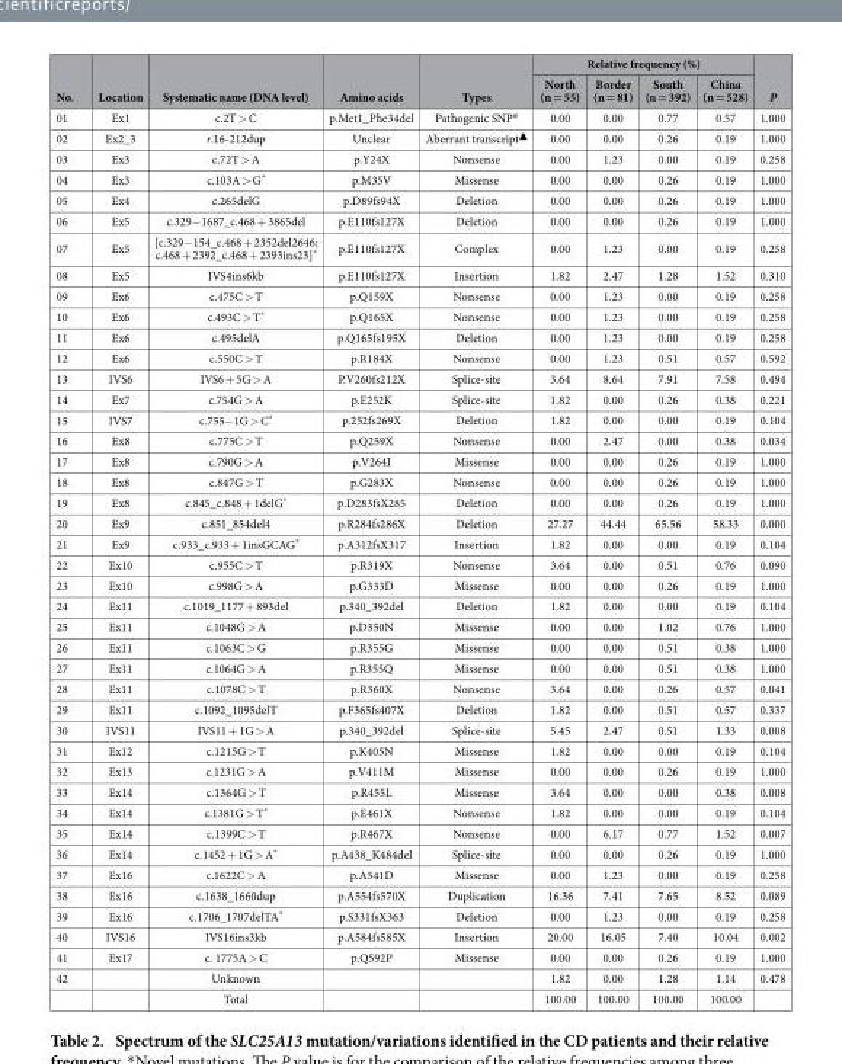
<table><thead><tr><td rowspan="2">No.</td><td rowspan="2">Location</td><td rowspan="2">Systematic name (DNA level)</td><td rowspan="2">Amino acids</td><td rowspan="2">Types</td><td colspan="4">Relative frequency (%)</td><td rowspan="2">P</td></tr><tr><td>North (n = 55)</td><td>Border (n = 81)</td><td>South (n = 392)</td><td>China (n = 528)</td></tr></thead><tbody><tr><td>01</td><td>Ex1</td><td>c.2T &gt; C</td><td>p.Met1_Phe34del</td><td>Pathogenic SNP※</td><td>0.00</td><td>0.00</td><td>0.77</td><td>0.57</td><td>1.000</td></tr><tr><td>02</td><td>Ex2_3</td><td>r.16-212dup</td><td>Unclear</td><td>Aberrant transcript▲</td><td>0.00</td><td>0.00</td><td>0.26</td><td>0.19</td><td>1.000</td></tr><tr><td>03</td><td>Ex3</td><td>c.72T &gt; A</td><td>p.Y24X</td><td>Nonsense</td><td>0.00</td><td>1.23</td><td>0.00</td><td>0.19</td><td>0.258</td></tr><tr><td>04</td><td>Ex3</td><td>c.103A &gt; G*</td><td>p.M35V</td><td>Missense</td><td>0.00</td><td>0.00</td><td>0.26</td><td>0.19</td><td>1.000</td></tr><tr><td>05</td><td>Ex4</td><td>c.265delG</td><td>p.D89fs94X</td><td>Deletion</td><td>0.00</td><td>0.00</td><td>0.26</td><td>0.19</td><td>1.000</td></tr><tr><td>06</td><td>Ex5</td><td>c.329− 1687_c.468 + 3865del</td><td>p.E110fs127X</td><td>Deletion</td><td>0.00</td><td>0.00</td><td>0.26</td><td>0.19</td><td>1.000</td></tr><tr><td>07</td><td>Ex5</td><td>[c.329− 154_c.468 + 2352del2646; c.468 + 2392_c.468 + 2393ins23]*</td><td>p.E110fs127X</td><td>Complex</td><td>0.00</td><td>1.23</td><td>0.00</td><td>0.19</td><td>0.258</td></tr><tr><td>08</td><td>Ex5</td><td>IVS4ins6kb</td><td>p.E110fs127X</td><td>Insertion</td><td>1.82</td><td>2.47</td><td>1.28</td><td>1.52</td><td>0.310</td></tr><tr><td>09</td><td>Ex6</td><td>c.475C &gt; T</td><td>p.Q159X</td><td>Nonsense</td><td>0.00</td><td>1.23</td><td>0.00</td><td>0.19</td><td>0.258</td></tr><tr><td>10</td><td>Ex6</td><td>c.493C &gt; T*</td><td>p.Q165X</td><td>Nonsense</td><td>0.00</td><td>1.23</td><td>0.00</td><td>0.19</td><td>0.258</td></tr><tr><td>11</td><td>Ex6</td><td>c.495delA</td><td>p.Q165fs195X</td><td>Deletion</td><td>0.00</td><td>1.23</td><td>0.00</td><td>0.19</td><td>0.258</td></tr><tr><td>12</td><td>Ex6</td><td>c.550C &gt; T</td><td>p.R184X</td><td>Nonsense</td><td>0.00</td><td>1.23</td><td>0.51</td><td>0.57</td><td>0.592</td></tr><tr><td>13</td><td>IVS6</td><td>IVS6 + 5G &gt; A</td><td>P.V260fs212X</td><td>Splice-site</td><td>3.64</td><td>8.64</td><td>7.91</td><td>7.58</td><td>0.494</td></tr><tr><td>14</td><td>Ex7</td><td>c.754G &gt; A</td><td>p.E252K</td><td>Splice-site</td><td>1.82</td><td>0.00</td><td>0.26</td><td>0.38</td><td>0.221</td></tr><tr><td>15</td><td>IVS7</td><td>c.755− 1G &gt; C*</td><td>p.252fs269X</td><td>Deletion</td><td>1.82</td><td>0.00</td><td>0.00</td><td>0.19</td><td>0.104</td></tr><tr><td>16</td><td>Ex8</td><td>c.775C &gt; T</td><td>p.Q259X</td><td>Nonsense</td><td>0.00</td><td>2.47</td><td>0.00</td><td>0.38</td><td>0.034</td></tr><tr><td>17</td><td>Ex8</td><td>c.790G &gt; A</td><td>p.V264I</td><td>Missense</td><td>0.00</td><td>0.00</td><td>0.26</td><td>0.19</td><td>1.000</td></tr><tr><td>18</td><td>Ex8</td><td>c.847G &gt; T</td><td>p.G283X</td><td>Nonsense</td><td>0.00</td><td>0.00</td><td>0.26</td><td>0.19</td><td>1.000</td></tr><tr><td>19</td><td>Ex8</td><td>c.845_c.848 + 1delG*</td><td>p.D283fsX285</td><td>Deletion</td><td>0.00</td><td>0.00</td><td>0.26</td><td>0.19</td><td>1.000</td></tr><tr><td>20</td><td>Ex9</td><td>c.851_854del4</td><td>p.R284fs286X</td><td>Deletion</td><td>27.27</td><td>44.44</td><td>65.56</td><td>58.33</td><td>0.000</td></tr><tr><td>21</td><td>Ex9</td><td>c.933_c.933 + 1insGCAG*</td><td>p.A312fsX317</td><td>Insertion</td><td>1.82</td><td>0.00</td><td>0.00</td><td>0.19</td><td>0.104</td></tr><tr><td>22</td><td>Ex10</td><td>c.955C &gt; T</td><td>p.R319X</td><td>Nonsense</td><td>3.64</td><td>0.00</td><td>0.51</td><td>0.76</td><td>0.090</td></tr><tr><td>23</td><td>Ex10</td><td>c.998G &gt; A</td><td>p.G333D</td><td>Missense</td><td>0.00</td><td>0.00</td><td>0.26</td><td>0.19</td><td>1.000</td></tr><tr><td>24</td><td>Ex11</td><td>c.1019_1177 + 893del</td><td>p.340_392del</td><td>Deletion</td><td>1.82</td><td>0.00</td><td>0.00</td><td>0.19</td><td>0.104</td></tr><tr><td>25</td><td>Ex11</td><td>c.1048G &gt; A</td><td>p.D350N</td><td>Missense</td><td>0.00</td><td>0.00</td><td>1.02</td><td>0.76</td><td>1.000</td></tr><tr><td>26</td><td>Ex11</td><td>c.1063C &gt; G</td><td>p.R355G</td><td>Missense</td><td>0.00</td><td>0.00</td><td>0.51</td><td>0.38</td><td>1.000</td></tr><tr><td>27</td><td>Ex11</td><td>c.1064G &gt; A</td><td>p.R355Q</td><td>Missense</td><td>0.00</td><td>0.00</td><td>0.51</td><td>0.38</td><td>1.000</td></tr><tr><td>28</td><td>Ex11</td><td>c.1078C &gt; T</td><td>p.R360X</td><td>Nonsense</td><td>3.64</td><td>0.00</td><td>0.26</td><td>0.57</td><td>0.041</td></tr><tr><td>29</td><td>Ex11</td><td>c.1092_1095delT</td><td>p.F365fs407X</td><td>Deletion</td><td>1.82</td><td>0.00</td><td>0.51</td><td>0.57</td><td>0.337</td></tr><tr><td>30</td><td>IVS11</td><td>IVS11 + 1G &gt; A</td><td>p.340_392del</td><td>Splice-site</td><td>5.45</td><td>2.47</td><td>0.51</td><td>1.33</td><td>0.008</td></tr><tr><td>31</td><td>Ex12</td><td>c.1215G &gt; T</td><td>p.K405N</td><td>Missense</td><td>1.82</td><td>0.00</td><td>0.00</td><td>0.19</td><td>0.104</td></tr><tr><td>32</td><td>Ex13</td><td>c.1231G &gt; A</td><td>p.V411M</td><td>Missense</td><td>0.00</td><td>0.00</td><td>0.26</td><td>0.19</td><td>1.000</td></tr><tr><td>33</td><td>Ex14</td><td>c.1364G &gt; T</td><td>p.R455L</td><td>Missense</td><td>3.64</td><td>0.00</td><td>0.00</td><td>0.38</td><td>0.008</td></tr><tr><td>34</td><td>Ex14</td><td>c.1381G &gt; T*</td><td>p.E461X</td><td>Nonsense</td><td>1.82</td><td>0.00</td><td>0.00</td><td>0.19</td><td>0.104</td></tr><tr><td>35</td><td>Ex14</td><td>c.1399C &gt; T</td><td>p.R467X</td><td>Nonsense</td><td>0.00</td><td>6.17</td><td>0.77</td><td>1.52</td><td>0.007</td></tr><tr><td>36</td><td>Ex14</td><td>c.1452 + 1G &gt; A*</td><td>p.A438_K484del</td><td>Splice-site</td><td>0.00</td><td>0.00</td><td>0.26</td><td>0.19</td><td>1.000</td></tr><tr><td>37</td><td>Ex16</td><td>c.1622C &gt; A</td><td>p.A541D</td><td>Missense</td><td>0.00</td><td>1.23</td><td>0.00</td><td>0.19</td><td>0.258</td></tr><tr><td>38</td><td>Ex16</td><td>c.1638_1660dup</td><td>p.A554fs570X</td><td>Duplication</td><td>16.36</td><td>7.41</td><td>7.65</td><td>8.52</td><td>0.089</td></tr><tr><td>39</td><td>Ex16</td><td>c.1706_1707delTA*</td><td>p.S331fsX363</td><td>Deletion</td><td>0.00</td><td>1.23</td><td>0.00</td><td>0.19</td><td>0.258</td></tr><tr><td>40</td><td>IVS16</td><td>IVS16ins3kb</td><td>p.A584fs585X</td><td>Insertion</td><td>20.00</td><td>16.05</td><td>7.40</td><td>10.04</td><td>0.002</td></tr><tr><td>41</td><td>Ex17</td><td>c. 1775A &gt; C</td><td>p.Q592P</td><td>Missense</td><td>0.00</td><td>0.00</td><td>0.26</td><td>0.19</td><td>1.000</td></tr><tr><td rowspan="2">42</td><td></td><td>Unknown</td><td></td><td></td><td>1.82</td><td>0.00</td><td>1.28</td><td>1.14</td><td>0.478</td></tr><tr><td></td><td>Total</td><td></td><td></td><td>100.00</td><td>100.00</td><td>100.00</td><td>100.00</td><td></td></tr></tbody></table>